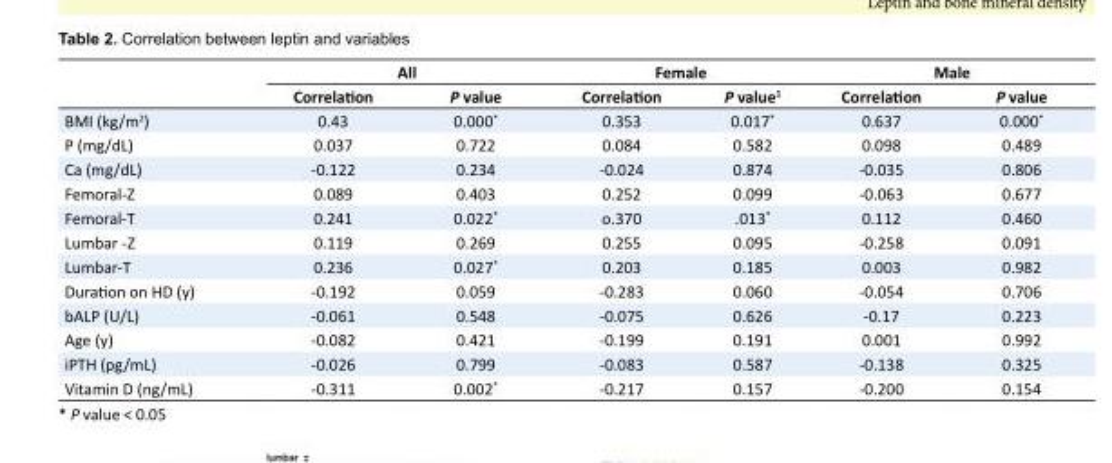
<table><thead><tr><td rowspan="2"></td><td colspan="2">All</td><td colspan="2">Female</td><td colspan="2">Male</td></tr><tr><td>Correlation</td><td>P value</td><td>Correlation</td><td>P value<sup>1</sup></td><td>Correlation</td><td>P value</td></tr></thead><tbody><tr><td>BMI (kg/m<sup>2</sup>)</td><td>0.43</td><td>0.000*</td><td>0.353</td><td>0.017*</td><td>0.637</td><td>0.000*</td></tr><tr><td>P (mg/dL)</td><td>0.037</td><td>0.722</td><td>0.084</td><td>0.582</td><td>0.098</td><td>0.489</td></tr><tr><td>Ca (mg/dL)</td><td>-0.122</td><td>0.234</td><td>-0.024</td><td>0.874</td><td>-0.035</td><td>0.806</td></tr><tr><td>Femoral-Z</td><td>0.089</td><td>0.403</td><td>0.252</td><td>0.099</td><td>-0.063</td><td>0.677</td></tr><tr><td>Femoral-T</td><td>0.241</td><td>0.022*</td><td>o.370</td><td>.013*</td><td>0.112</td><td>0.460</td></tr><tr><td>Lumbar -Z</td><td>0.119</td><td>0.269</td><td>0.255</td><td>0.095</td><td>-0.258</td><td>0.091</td></tr><tr><td>Lumbar-T</td><td>0.236</td><td>0.027*</td><td>0.203</td><td>0.185</td><td>0.003</td><td>0.982</td></tr><tr><td>Duration on HD (y)</td><td>-0.192</td><td>0.059</td><td>-0.283</td><td>0.060</td><td>-0.054</td><td>0.706</td></tr><tr><td>bALP (U/L)</td><td>-0.061</td><td>0.548</td><td>-0.075</td><td>0.626</td><td>-0.17</td><td>0.223</td></tr><tr><td>Age (y)</td><td>-0.082</td><td>0.421</td><td>-0.199</td><td>0.191</td><td>0.001</td><td>0.992</td></tr><tr><td>iPTH (pg/mL)</td><td>-0.026</td><td>0.799</td><td>-0.083</td><td>0.587</td><td>-0.138</td><td>0.325</td></tr><tr><td>Vitamin D (ng/mL)</td><td>-0.311</td><td>0.002*</td><td>-0.217</td><td>0.157</td><td>-0.200</td><td>0.154</td></tr></tbody></table>